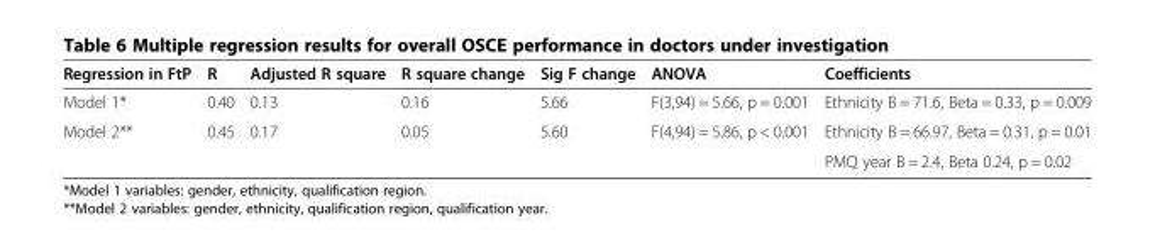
<table><thead><tr><td>Regression in FtP</td><td>R</td><td>Adjusted R square</td><td>R square change</td><td>Sig F change</td><td>ANOVA</td><td>Coefficients</td></tr></thead><tbody><tr><td>Model 1*</td><td>0.40</td><td>0.13</td><td>0.16</td><td>5.66</td><td>F(3,94) = 5.66, p = 0.001</td><td>Ethnicity B = 71.6, Beta = 0.33, p = 0.009</td></tr><tr><td rowspan="2">Model 2**</td><td>0.45</td><td>0.17</td><td>0.05</td><td>5.60</td><td>F(4,94) = 5.86, p &lt; 0.001</td><td>Ethnicity B = 66.97, Beta = 0.31, p = 0.01</td></tr><tr><td></td><td></td><td></td><td></td><td></td><td>PMQ year B = 2.4, Beta 0.24, p = 0.02</td></tr></tbody></table>